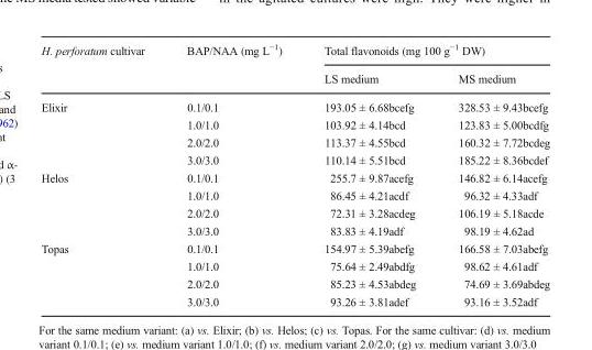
<table><thead><tr><td rowspan="2">H. perforatum cultivar</td><td rowspan="2">BAP/NAA (mg L<sup>−1</sup>)</td><td colspan="2">Total flavonoids (mg 100 g<sup>−1</sup> DW)</td></tr><tr><td>LS medium</td><td>MS medium</td></tr></thead><tbody><tr><td rowspan="4">Elixir</td><td>0.1/0.1</td><td>193.05 ± 6.68bcefg</td><td>328.53 ± 9.43bcefg</td></tr><tr><td>1.0/1.0</td><td>103.92 ± 4.14bcd</td><td>123.83 ± 5.00bcdfg</td></tr><tr><td>2.0/2.0</td><td>113.37 ± 4.55bcd</td><td>160.32 ± 7.72bcdeg</td></tr><tr><td>3.0/3.0</td><td>110.14 ± 5.51bcd</td><td>185.22 ± 8.36bcdef</td></tr><tr><td rowspan="4">Helos</td><td>0.1/0.1</td><td>255.7 ± 9.87acefg</td><td>146.82 ± 6.14acefg</td></tr><tr><td>1.0/1.0</td><td>86.45 ± 4.21acdf</td><td>96.32 ± 4.33adf</td></tr><tr><td>2.0/2.0</td><td>72.31 ± 3.28acdeg</td><td>106.19 ± 5.18acde</td></tr><tr><td>3.0/3.0</td><td>83.83 ± 4.19adf</td><td>98.19 ± 4.62ad</td></tr><tr><td rowspan="4">Topas</td><td>0.1/0.1</td><td>154.97 ± 5.39abefg</td><td>166.58 ± 7.03abefg</td></tr><tr><td>1.0/1.0</td><td>75.64 ± 2.49abdfg</td><td>98.62 ± 4.61adf</td></tr><tr><td>2.0/2.0</td><td>85.23 ± 4.53abdeg</td><td>74.69 ± 3.69abdeg</td></tr><tr><td>3.0/3.0</td><td>93.26 ± 3.81adef</td><td>93.16 ± 3.52adf</td></tr></tbody></table>